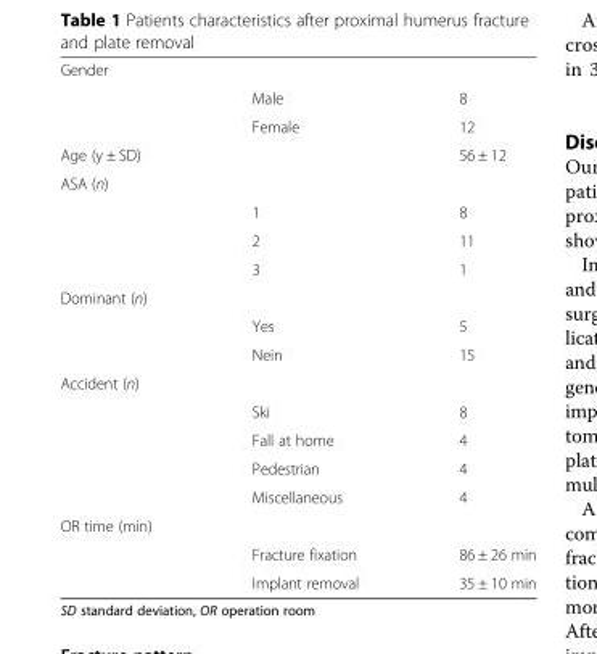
<table><tbody><tr><td colspan="3">Gender</td></tr><tr><td></td><td>Male</td><td>8</td></tr><tr><td></td><td>Female</td><td>12</td></tr><tr><td>Age (y ± SD)</td><td></td><td>56 ± 12</td></tr><tr><td colspan="3">ASA (n)</td></tr><tr><td></td><td>1</td><td>8</td></tr><tr><td></td><td>2</td><td>11</td></tr><tr><td></td><td>3</td><td>1</td></tr><tr><td colspan="3">Dominant (n)</td></tr><tr><td></td><td>Yes</td><td>5</td></tr><tr><td></td><td>Nein</td><td>15</td></tr><tr><td colspan="3">Accident (n)</td></tr><tr><td></td><td>Ski</td><td>8</td></tr><tr><td></td><td>Fall at home</td><td>4</td></tr><tr><td></td><td>Pedestrian</td><td>4</td></tr><tr><td></td><td>Miscellaneous</td><td>4</td></tr><tr><td colspan="3">OR time (min)</td></tr><tr><td></td><td>Fracture fixation</td><td>86 ± 26 min</td></tr><tr><td></td><td>Implant removal</td><td>35 ± 10 min</td></tr></tbody></table>